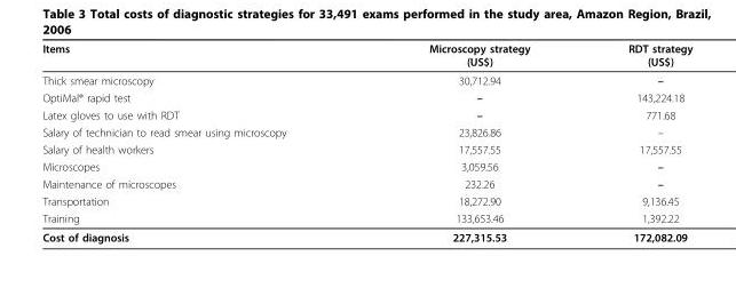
<table><thead><tr><td>Items</td><td>Microscopy strategy (US$)</td><td>RDT strategy (US$)</td></tr></thead><tbody><tr><td>Thick smear microscopy</td><td>30,712.94</td><td>–</td></tr><tr><td>OptiMal<sup>®</sup> rapid test</td><td>–</td><td>143,224.18</td></tr><tr><td>Latex gloves to use with RDT</td><td>–</td><td>771.68</td></tr><tr><td>Salary of technician to read smear using microscopy</td><td>23,826.86</td><td>–</td></tr><tr><td>Salary of health workers</td><td>17,557.55</td><td>17,557.55</td></tr><tr><td>Microscopes</td><td>3,059.56</td><td>–</td></tr><tr><td>Maintenance of microscopes</td><td>232.26</td><td>–</td></tr><tr><td>Transportation</td><td>18,272.90</td><td>9,136.45</td></tr><tr><td>Training</td><td>133,653.46</td><td>1,392.22</td></tr><tr><td>Cost of diagnosis</td><td>227,315.53</td><td>172,082.09</td></tr></tbody></table>